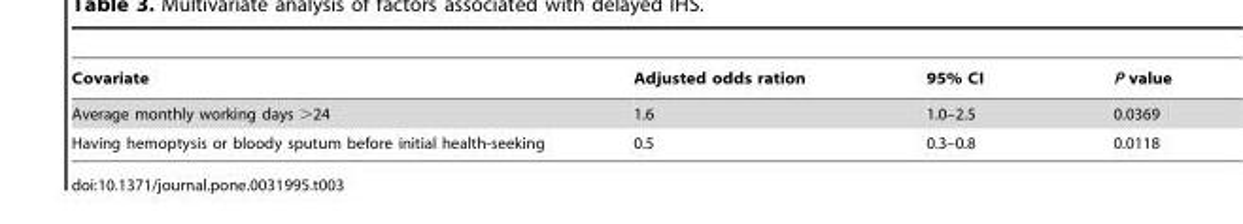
<table><thead><tr><td>Covariate</td><td>Adjusted odds ration</td><td>95% CI</td><td>P value</td></tr></thead><tbody><tr><td>Average monthly working days &gt;24</td><td>1.6</td><td>1.0–2.5</td><td>0.0369</td></tr><tr><td>Having hemoptysis or bloody sputum before initial health-seeking</td><td>0.5</td><td>0.3–0.8</td><td>0.0118</td></tr></tbody></table>